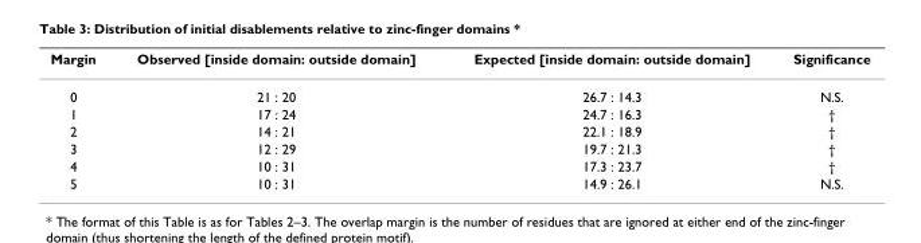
<table><thead><tr><td>Margin</td><td>Observed [inside domain: outside domain]</td><td>Expected [inside domain: outside domain]</td><td>Significance</td></tr></thead><tbody><tr><td>0</td><td>21 : 20</td><td>26.7 : 14.3</td><td>N.S.</td></tr><tr><td>1</td><td>17 : 24</td><td>24.7 : 16.3</td><td>†</td></tr><tr><td>2</td><td>14 : 21</td><td>22.1 : 18.9</td><td>†</td></tr><tr><td>3</td><td>12 : 29</td><td>19.7 : 21.3</td><td>†</td></tr><tr><td>4</td><td>10 : 31</td><td>17.3 : 23.7</td><td>†</td></tr><tr><td>5</td><td>10 : 31</td><td>14.9 : 26.1</td><td>N.S.</td></tr></tbody></table>